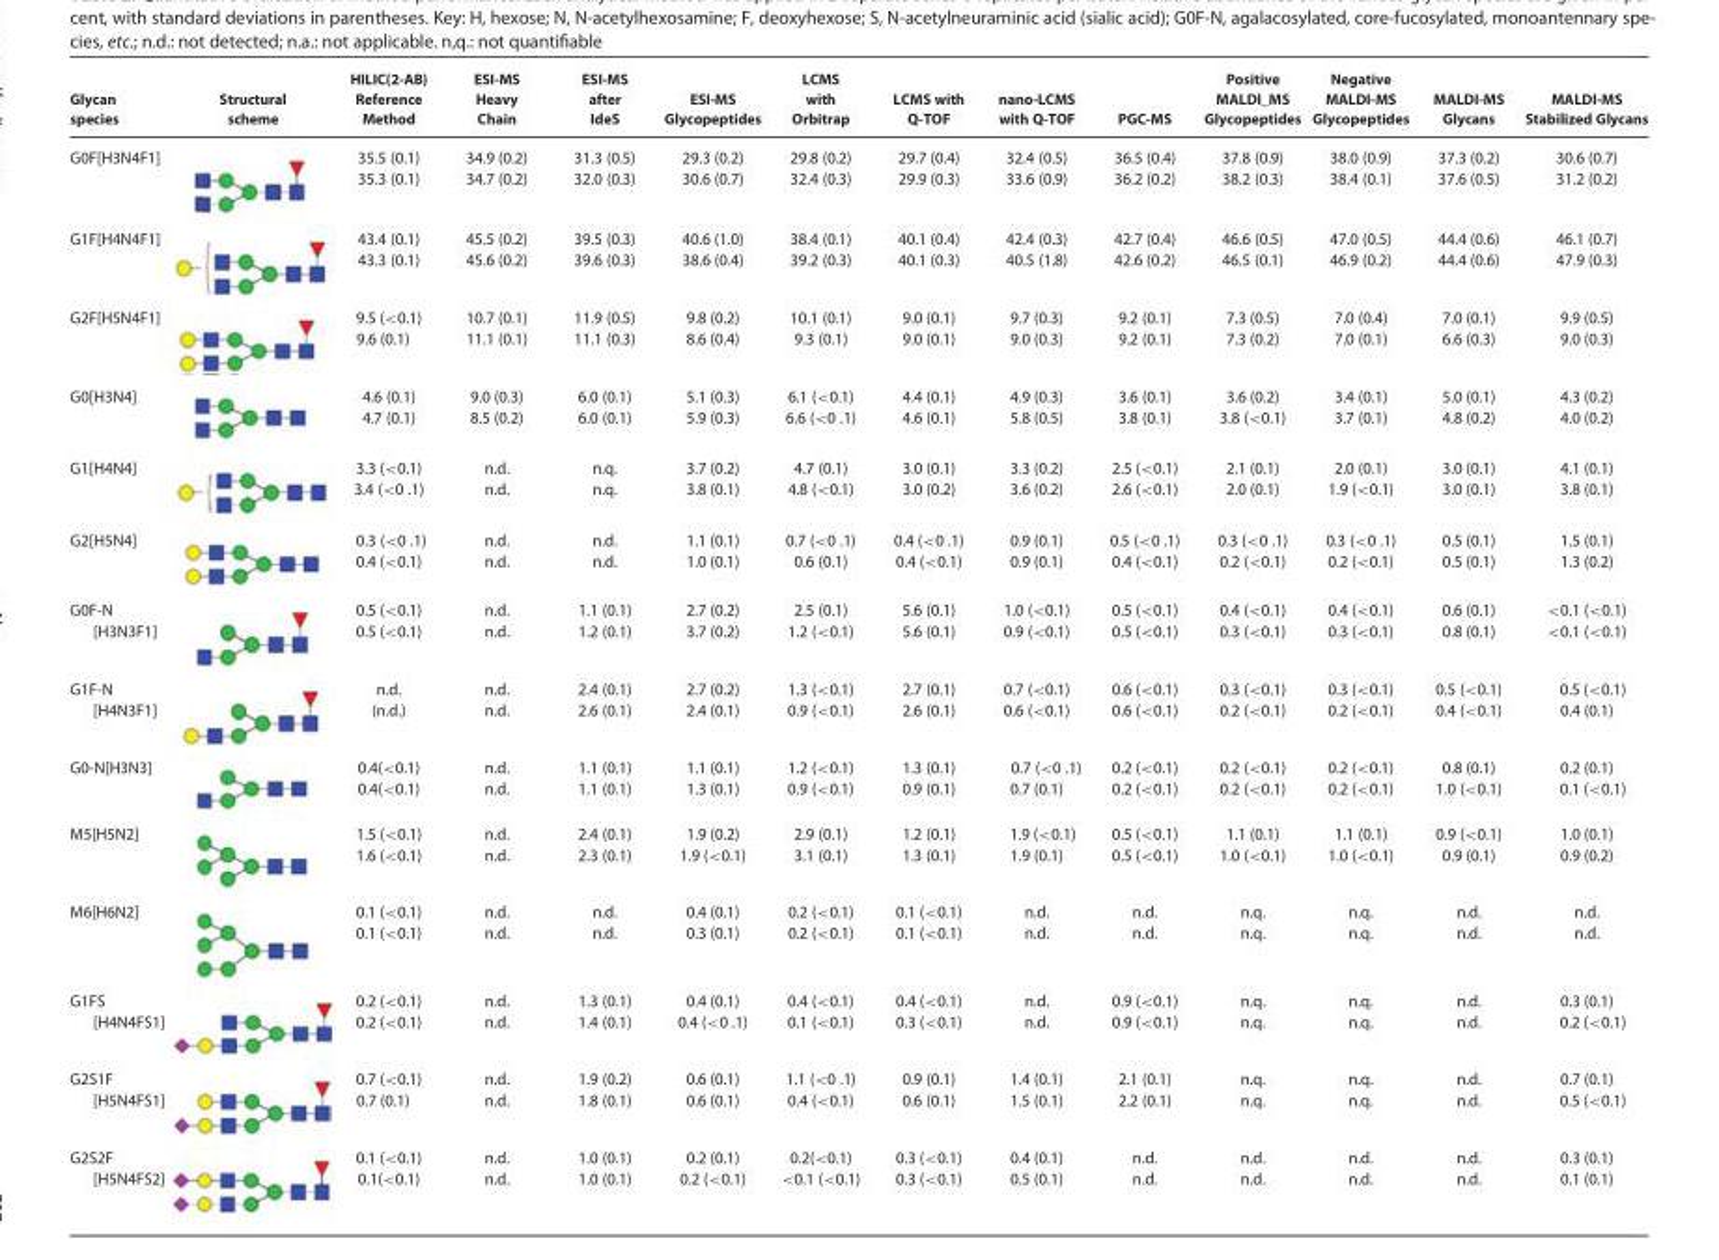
<table><thead><tr><td>Glycan species</td><td>Structural scheme</td><td>HILIC(2-AB) Reference Method</td><td>ESI-MS Heavy Chain</td><td>ESI-MS after IdeS</td><td>ESI-MS Glycopeptides</td><td>LCMS with Orbitrap</td><td>LCMS with Q-TOF</td><td>nano-LCMS with Q-TOF</td><td>PGC-MS</td><td>Positive MALDI_MS Glycopeptides</td><td>Negative MALDI-MS Glycopeptides</td><td>MALDI-MS Glycans</td><td>MALDI-MS Stabilized Glycans</td></tr></thead><tbody><tr><td>G0F[H3N4F1]</td><td></td><td>35.5 (0.1) 35.3 (0.1)</td><td>34.9 (0.2) 34.7 (0.2)</td><td>31.3 (0.5) 32.0 (0.3)</td><td>29.3 (0.2) 30.6 (0.7)</td><td>29.8 (0.2) 32.4 (0.3)</td><td>29.7 (0.4) 29.9 (0.3)</td><td>32.4 (0.5) 33.6 (0.9)</td><td>36.5 (0.4) 36.2 (0.2)</td><td>37.8 (0.9) 38.2 (0.3)</td><td>38.0 (0.9) 38.4 (0.1)</td><td>37.3 (0.2) 37.6 (0.5)</td><td>30.6 (0.7) 31.2 (0.2)</td></tr><tr><td>G1F[H4N4F1]</td><td></td><td>43.4 (0.1) 43.3 (0.1)</td><td>45.5 (0.2) 45.6 (0.2)</td><td>39.5 (0.3) 39.6 (0.3)</td><td>40.6 (1.0) 38.6 (0.4)</td><td>38.4 (0.1) 39.2 (0.3)</td><td>40.1 (0.4) 40.1 (0.3)</td><td>42.4 (0.3) 40.5 (1.8)</td><td>42.7 (0.4) 42.6 (0.2)</td><td>46.6 (0.5) 46.5 (0.1)</td><td>47.0 (0.5) 46.9 (0.2)</td><td>44.4 (0.6) 44.4 (0.6)</td><td>46.1 (0.7) 47.9 (0.3)</td></tr><tr><td>G2F[H5N4F1]</td><td></td><td>9.5 (&lt;0.1) 9.6 (0.1)</td><td>10.7 (0.1) 11.1 (0.1)</td><td>11.9 (0.5) 11.1 (0.3)</td><td>9.8 (0.2) 8.6 (0.4)</td><td>10.1 (0.1) 9.3 (0.1)</td><td>9.0 (0.1) 9.0 (0.1)</td><td>9.7 (0.3) 9.0 (0.3)</td><td>9.2 (0.1) 9.2 (0.1)</td><td>7.3 (0.5) 7.3 (0.2)</td><td>7.0 (0.4) 7.0 (0.1)</td><td>7.0 (0.1) 6.6 (0.3)</td><td>9.9 (0.5) 9.0 (0.3)</td></tr><tr><td>G0[H3N4]</td><td></td><td>4.6 (0.1) 4.7 (0.1)</td><td>9.0 (0.3) 8.5 (0.2)</td><td>6.0 (0.1) 6.0 (0.1)</td><td>5.1 (0.3) 5.9 (0.3)</td><td>6.1 (&lt;0.1) 6.6 (&lt;0 .1)</td><td>4.4 (0.1) 4.6 (0.1)</td><td>4.9 (0.3) 5.8 (0.5)</td><td>3.6 (0.1) 3.8 (0.1)</td><td>3.6 (0.2) 3.8 (&lt;0.1)</td><td>3.4 (0.1) 3.7 (0.1)</td><td>5.0 (0.1) 4.8 (0.2)</td><td>4.3 (0.2) 4.0 (0.2)</td></tr><tr><td>G1[H4N4]</td><td></td><td>3.3 (&lt;0.1) 3.4 (&lt;0 .1)</td><td>n.d. n.d.</td><td>n.q. n.q.</td><td>3.7 (0.2) 3.8 (0.1)</td><td>4.7 (0.1) 4.8 (&lt;0.1)</td><td>3.0 (0.1) 3.0 (0.2)</td><td>3.3 (0.2) 3.6 (0.2)</td><td>2.5 (&lt;0.1) 2.6 (&lt;0.1)</td><td>2.1 (0.1) 2.0 (0.1)</td><td>2.0 (0.1) 1.9 (&lt;0.1)</td><td>3.0 (0.1) 3.0 (0.1)</td><td>4.1 (0.1) 3.8 (0.1)</td></tr><tr><td>G2[H5N4]</td><td></td><td>0.3 (&lt;0 .1) 0.4 (&lt;0.1)</td><td>n.d. n.d.</td><td>n.d. n.d.</td><td>1.1 (0.1) 1.0 (0.1)</td><td>0.7 (&lt;0 .1) 0.6 (0.1)</td><td>0.4 (&lt;0 .1) 0.4 (&lt;0.1)</td><td>0.9 (0.1) 0.9 (0.1)</td><td>0.5 (&lt;0 .1) 0.4 (&lt;0.1)</td><td>0.3 (&lt;0 .1) 0.2 (&lt;0.1)</td><td>0.3 (&lt;0 .1) 0.2 (&lt;0.1)</td><td>0.5 (0.1) 0.5 (0.1)</td><td>1.5 (0.1) 1.3 (0.2)</td></tr><tr><td>G0F-N [H3N3F1]</td><td></td><td>0.5 (&lt;0.1) 0.5 (&lt;0.1)</td><td>n.d. n.d.</td><td>1.1 (0.1) 1.2 (0.1)</td><td>2.7 (0.2) 3.7 (0.2)</td><td>2.5 (0.1) 1.2 (&lt;0.1)</td><td>5.6 (0.1) 5.6 (0.1)</td><td>1.0 (&lt;0.1) 0.9 (&lt;0.1)</td><td>0.5 (&lt;0.1) 0.5 (&lt;0.1)</td><td>0.4 (&lt;0.1) 0.3 (&lt;0.1)</td><td>0.4 (&lt;0.1) 0.3 (&lt;0.1)</td><td>0.6 (0.1) 0.8 (0.1)</td><td>&lt;0.1 (&lt;0.1) &lt;0.1 (&lt;0.1)</td></tr><tr><td>G1F-N [H4N3F1]</td><td></td><td>n.d. (n.d.)</td><td>n.d. n.d.</td><td>2.4 (0.1) 2.6 (0.1)</td><td>2.7 (0.2) 2.4 (0.1)</td><td>1.3 (&lt;0.1) 0.9 (&lt;0.1)</td><td>2.7 (0.1) 2.6 (0.1)</td><td>0.7 (&lt;0.1) 0.6 (&lt;0.1)</td><td>0.6 (&lt;0.1) 0.6 (&lt;0.1)</td><td>0.3 (&lt;0.1) 0.2 (&lt;0.1)</td><td>0.3 (&lt;0.1) 0.2 (&lt;0.1)</td><td>0.5 (&lt;0.1) 0.4 (&lt;0.1)</td><td>0.5 (&lt;0.1) 0.4 (0.1)</td></tr><tr><td>G0-N[H3N3]</td><td></td><td>0.4(&lt;0.1) 0.4(&lt;0.1)</td><td>n.d. n.d.</td><td>1.1 (0.1) 1.1 (0.1)</td><td>1.1 (0.1) 1.3 (0.1)</td><td>1.2 (&lt;0.1) 0.9 (&lt;0.1)</td><td>1.3 (0.1) 0.9 (0.1)</td><td>0.7 (&lt;0 .1) 0.7 (0.1)</td><td>0.2 (&lt;0.1) 0.2 (&lt;0.1)</td><td>0.2 (&lt;0.1) 0.2 (&lt;0.1)</td><td>0.2 (&lt;0.1) 0.2 (&lt;0.1)</td><td>0.8 (0.1) 1.0 (&lt;0.1)</td><td>0.2 (0.1) 0.1 (&lt;0.1)</td></tr><tr><td>M5[H5N2]</td><td></td><td>1.5 (&lt;0.1) 1.6 (&lt;0.1)</td><td>n.d. n.d.</td><td>2.4 (0.1) 2.3 (0.1)</td><td>1.9 (0.2) 1.9 (&lt;0.1)</td><td>2.9 (0.1) 3.1 (0.1)</td><td>1.2 (0.1) 1.3 (0.1)</td><td>1.9 (&lt;0.1) 1.9 (0.1)</td><td>0.5 (&lt;0.1) 0.5 (&lt;0.1)</td><td>1.1 (0.1) 1.0 (&lt;0.1)</td><td>1.1 (0.1) 1.0 (&lt;0.1)</td><td>0.9 (&lt;0.1) 0.9 (0.1)</td><td>1.0 (0.1) 0.9 (0.2)</td></tr><tr><td>M6[H6N2]</td><td></td><td>0.1 (&lt;0.1) 0.1 (&lt;0.1)</td><td>n.d. n.d.</td><td>n.d. n.d.</td><td>0.4 (0.1) 0.3 (0.1)</td><td>0.2 (&lt;0.1) 0.2 (&lt;0.1)</td><td>0.1 (&lt;0.1) 0.1 (&lt;0.1)</td><td>n.d. n.d.</td><td>n.d. n.d.</td><td>n.q. n.q.</td><td>n.q. n.q.</td><td>n.d. n.d.</td><td>n.d. n.d.</td></tr><tr><td>G1FS [H4N4FS1]</td><td></td><td>0.2 (&lt;0.1) 0.2 (&lt;0.1)</td><td>n.d. n.d.</td><td>1.3 (0.1) 1.4 (0.1)</td><td>0.4 (0.1) 0.4 (&lt;0 .1)</td><td>0.4 (&lt;0.1) 0.1 (&lt;0.1)</td><td>0.4 (&lt;0.1) 0.3 (&lt;0.1)</td><td>n.d. n.d.</td><td>0.9 (&lt;0.1) 0.9 (&lt;0.1)</td><td>n.q. n.q.</td><td>n.q. n.q.</td><td>n.d. n.d.</td><td>0.3 (0.1) 0.2 (&lt;0.1)</td></tr><tr><td>G2S1F [H5N4FS1]</td><td></td><td>0.7 (&lt;0.1) 0.7 (0.1)</td><td>n.d. n.d.</td><td>1.9 (0.2) 1.8 (0.1)</td><td>0.6 (0.1) 0.6 (0.1)</td><td>1.1 (&lt;0 .1) 0.4 (&lt;0.1)</td><td>0.9 (0.1) 0.6 (0.1)</td><td>1.4 (0.1) 1.5 (0.1)</td><td>2.1 (0.1) 2.2 (0.1)</td><td>n.q. n.q.</td><td>n.q. n.q.</td><td>n.d. n.d.</td><td>0.7 (0.1) 0.5 (&lt;0.1)</td></tr><tr><td>G2S2F [H5N4FS2]</td><td></td><td>0.1 (&lt;0.1) 0.1(&lt;0.1)</td><td>n.d. n.d.</td><td>1.0 (0.1) 1.0 (0.1)</td><td>0.2 (0.1) 0.2 (&lt;0.1)</td><td>0.2(&lt;0.1) &lt;0.1 (&lt;0.1)</td><td>0.3 (&lt;0.1) 0.3 (&lt;0.1)</td><td>0.4 (0.1) 0.5 (0.1)</td><td>n.d. n.d.</td><td>n.d. n.d.</td><td>n.d. n.d.</td><td>n.d. n.d.</td><td>0.3 (0.1) 0.1 (0.1)</td></tr></tbody></table>